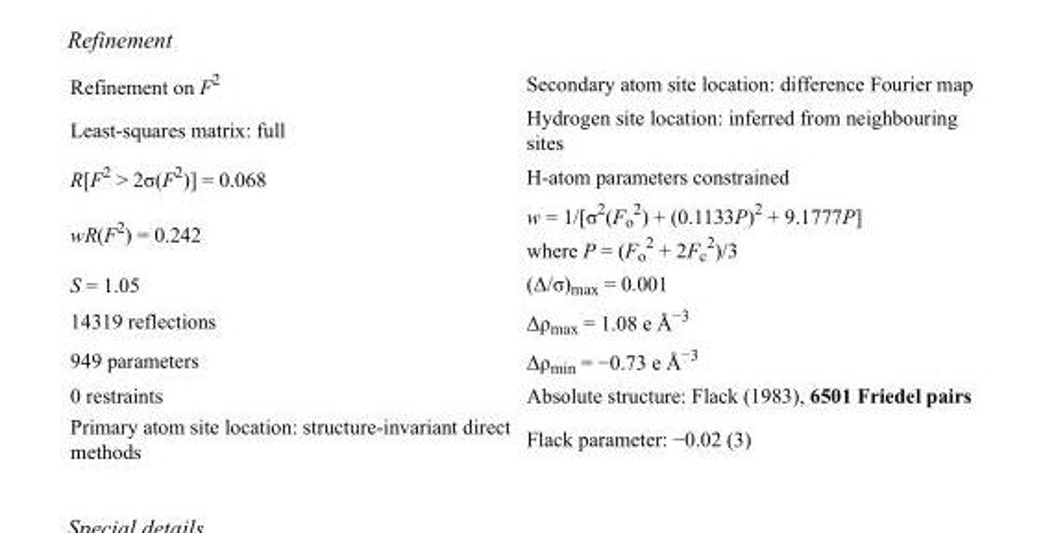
<table><tbody><tr><td>Refinement on F<sup>2</sup></td><td>Secondary atom site location: difference Fourier map</td></tr><tr><td>Least-squares matrix: full</td><td>Hydrogen site location: inferred from neighbouring sites</td></tr><tr><td>R[F<sup>2</sup> &gt; 2σ(F<sup>2</sup>)] = 0.068</td><td>H-atom parameters constrained</td></tr><tr><td>wR(F<sup>2</sup>) = 0.242</td><td>w = 1/[σ<sup>2</sup>(F<sub>o</sub> <sup>2</sup>) + (0.1133P)<sup>2</sup> + 9.1777P] where P = (F<sub>o</sub> <sup>2</sup> + 2F<sub>c</sub> <sup>2</sup>)/3</td></tr><tr><td>S = 1.05</td><td>(Δ/σ)<sub>max</sub> = 0.001</td></tr><tr><td>14319 reflections</td><td>Δρ<sub>max</sub> = 1.08 e Å<sup>−3</sup></td></tr><tr><td>949 parameters</td><td>Δρ<sub>min</sub> = −0.73 e Å<sup>−3</sup></td></tr><tr><td>0 restraints</td><td>Absolute structure: Flack (1983), 6501 Friedel pairs</td></tr><tr><td>Primary atom site location: structure-invariant direct methods</td><td>Flack parameter: −0.02 (3)</td></tr></tbody></table>